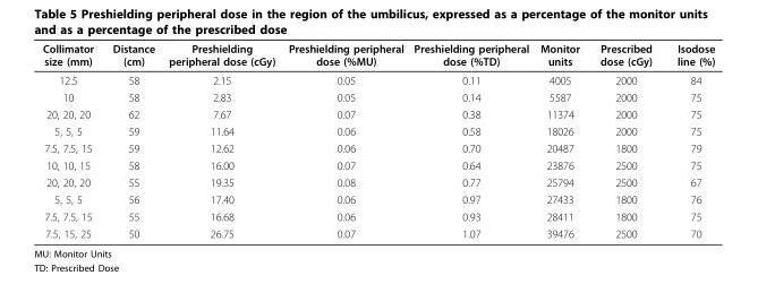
<table><thead><tr><td>Collimator size (mm)</td><td>Distance (cm)</td><td>Preshielding peripheral dose (cGy)</td><td>Preshielding peripheral dose (%MU)</td><td>Preshielding peripheral dose (%TD)</td><td>Monitor units</td><td>Prescribed dose (cGy)</td><td>Isodose line (%)</td></tr></thead><tbody><tr><td>12.5</td><td>58</td><td>2.15</td><td>0.05</td><td>0.11</td><td>4005</td><td>2000</td><td>84</td></tr><tr><td>10</td><td>58</td><td>2.83</td><td>0.05</td><td>0.14</td><td>5587</td><td>2000</td><td>75</td></tr><tr><td>20, 20, 20</td><td>62</td><td>7.67</td><td>0.07</td><td>0.38</td><td>11374</td><td>2000</td><td>75</td></tr><tr><td>5, 5, 5</td><td>59</td><td>11.64</td><td>0.06</td><td>0.58</td><td>18026</td><td>2000</td><td>75</td></tr><tr><td>7.5, 7.5, 15</td><td>59</td><td>12.62</td><td>0.06</td><td>0.70</td><td>20487</td><td>1800</td><td>79</td></tr><tr><td>10, 10, 15</td><td>58</td><td>16.00</td><td>0.07</td><td>0.64</td><td>23876</td><td>2500</td><td>75</td></tr><tr><td>20, 20, 20</td><td>55</td><td>19.35</td><td>0.08</td><td>0.77</td><td>25794</td><td>2500</td><td>67</td></tr><tr><td>5, 5, 5</td><td>56</td><td>17.40</td><td>0.06</td><td>0.97</td><td>27433</td><td>1800</td><td>76</td></tr><tr><td>7.5, 7.5, 15</td><td>55</td><td>16.68</td><td>0.06</td><td>0.93</td><td>28411</td><td>1800</td><td>75</td></tr><tr><td>7.5, 15, 25</td><td>50</td><td>26.75</td><td>0.07</td><td>1.07</td><td>39476</td><td>2500</td><td>70</td></tr></tbody></table>